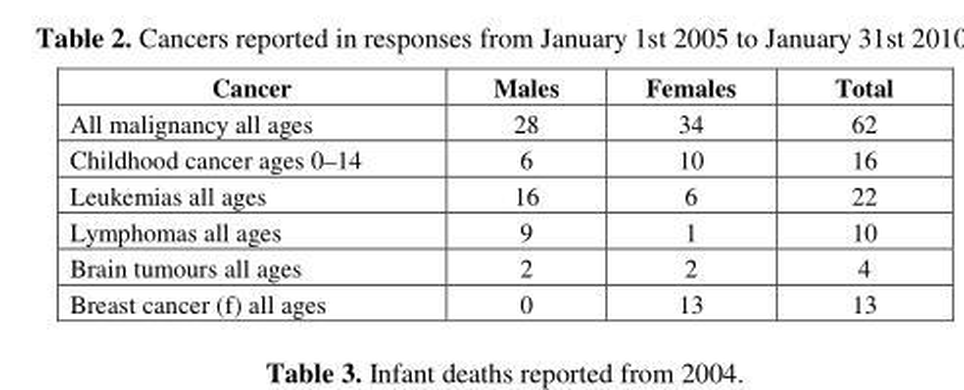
<table><thead><tr><td>Cancer</td><td>Males</td><td>Females</td><td>Total</td></tr></thead><tbody><tr><td>All malignancy all ages</td><td>28</td><td>34</td><td>62</td></tr><tr><td>Childhood cancer ages 0–14</td><td>6</td><td>10</td><td>16</td></tr><tr><td>Leukemias all ages</td><td>16</td><td>6</td><td>22</td></tr><tr><td>Lymphomas all ages</td><td>9</td><td>1</td><td>10</td></tr><tr><td>Brain tumours all ages</td><td>2</td><td>2</td><td>4</td></tr><tr><td>Breast cancer (f) all ages</td><td>0</td><td>13</td><td>13</td></tr></tbody></table>